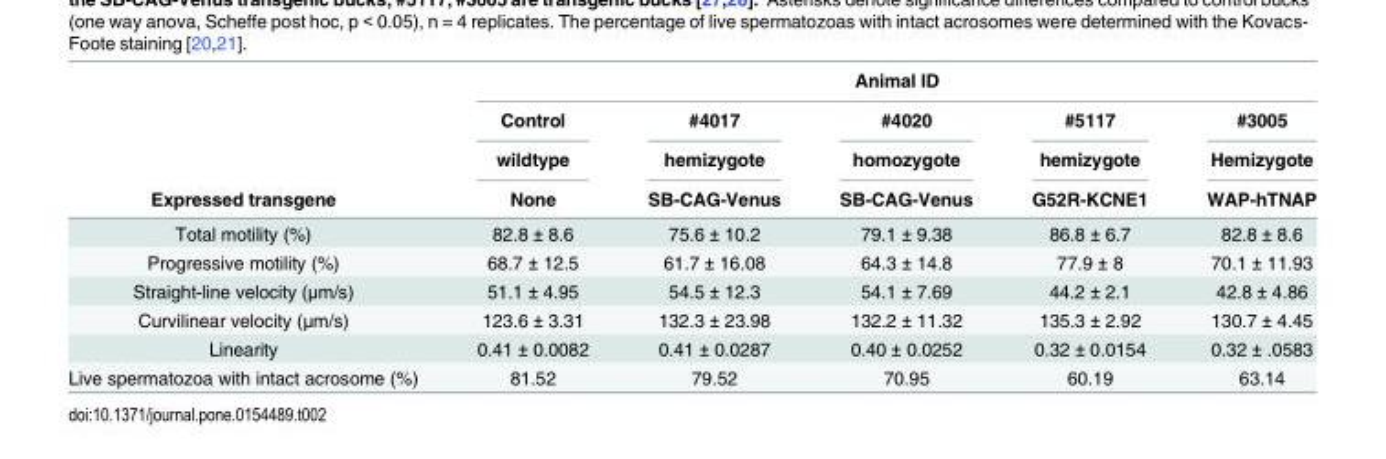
<table><thead><tr><td rowspan="4">Expressed transgene</td><td colspan="5">Animal ID</td></tr><tr><td rowspan="3">Control wildtype None</td><td rowspan="3">#4017 hemizygote SB-CAG-Venus</td><td rowspan="3">#4020 homozygote SB-CAG-Venus</td><td rowspan="3">#5117 hemizygote G52R-KCNE1</td><td rowspan="3">#3005 Hemizygote WAP-hTNAP</td></tr><tr></tr><tr></tr></thead><tbody><tr><td>Total motility (%)</td><td>82.8 ± 8.6</td><td>75.6 ± 10.2</td><td>79.1 ± 9.38</td><td>86.8 ± 6.7</td><td>82.8 ± 8.6</td></tr><tr><td>Progressive motility (%)</td><td>68.7 ± 12.5</td><td>61.7 ± 16.08</td><td>64.3 ± 14.8</td><td>77.9 ± 8</td><td>70.1 ± 11.93</td></tr><tr><td>Straight-line velocity (μm/s)</td><td>51.1 ± 4.95</td><td>54.5 ± 12.3</td><td>54.1 ± 7.69</td><td>44.2 ± 2.1</td><td>42.8 ± 4.86</td></tr><tr><td>Curvilinear velocity (μm/s)</td><td>123.6 ± 3.31</td><td>132.3 ± 23.98</td><td>132.2 ± 11.32</td><td>135.3 ± 2.92</td><td>130.7 ± 4.45</td></tr><tr><td>Linearity</td><td>0.41 ± 0.0082</td><td>0.41 ± 0.0287</td><td>0.40 ± 0.0252</td><td>0.32 ± 0.0154</td><td>0.32 ± .0583</td></tr><tr><td>Live spermatozoa with intact acrosome (%)</td><td>81.52</td><td>79.52</td><td>70.95</td><td>60.19</td><td>63.14</td></tr></tbody></table>